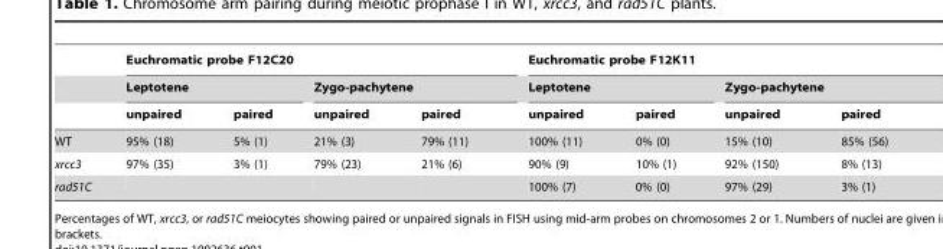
<table><thead><tr><td rowspan="3"></td><td colspan="4">Euchromatic probe F12C20</td><td colspan="4">Euchromatic probe F12K11</td></tr><tr><td colspan="2">Leptotene</td><td colspan="2">Zygo-pachytene</td><td colspan="2">Leptotene</td><td colspan="2">Zygo-pachytene</td></tr><tr><td>unpaired</td><td>paired</td><td>unpaired</td><td>paired</td><td>unpaired</td><td>paired</td><td>unpaired</td><td>paired</td></tr></thead><tbody><tr><td>WT</td><td>95% (18)</td><td>5% (1)</td><td>21% (3)</td><td>79% (11)</td><td>100% (11)</td><td>0% (0)</td><td>15% (10)</td><td>85% (56)</td></tr><tr><td>xrcc3</td><td>97% (35)</td><td>3% (1)</td><td>79% (23)</td><td>21% (6)</td><td>90% (9)</td><td>10% (1)</td><td>92% (150)</td><td>8% (13)</td></tr><tr><td>rad51C</td><td></td><td></td><td></td><td></td><td>100% (7)</td><td>0% (0)</td><td>97% (29)</td><td>3% (1)</td></tr></tbody></table>